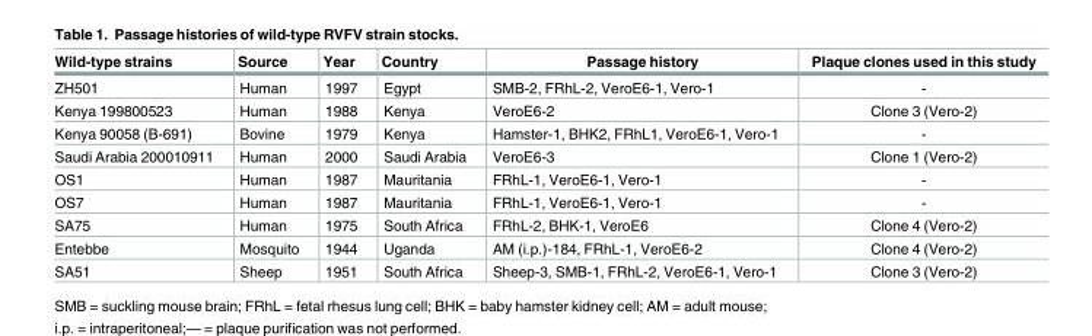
<table><thead><tr><td>Wild-type strains</td><td>Source</td><td>Year</td><td>Country</td><td>Passage history</td><td>Plaque clones used in this study</td></tr></thead><tbody><tr><td>ZH501</td><td>Human</td><td>1997</td><td>Egypt</td><td>SMB-2, FRhL-2, VeroE6-1, Vero-1</td><td>-</td></tr><tr><td>Kenya 199800523</td><td>Human</td><td>1988</td><td>Kenya</td><td>VeroE6-2</td><td>Clone 3 (Vero-2)</td></tr><tr><td>Kenya 90058 (B-691)</td><td>Bovine</td><td>1979</td><td>Kenya</td><td>Hamster-1, BHK2, FRhL1, VeroE6-1, Vero-1</td><td>-</td></tr><tr><td>Saudi Arabia 200010911</td><td>Human</td><td>2000</td><td>Saudi Arabia</td><td>VeroE6-3</td><td>Clone 1 (Vero-2)</td></tr><tr><td>OS1</td><td>Human</td><td>1987</td><td>Mauritania</td><td>FRhL-1, VeroE6-1, Vero-1</td><td>-</td></tr><tr><td>OS7</td><td>Human</td><td>1987</td><td>Mauritania</td><td>FRhL-1, VeroE6-1, Vero-1</td><td>-</td></tr><tr><td>SA75</td><td>Human</td><td>1975</td><td>South Africa</td><td>FRhL-2, BHK-1, VeroE6</td><td>Clone 4 (Vero-2)</td></tr><tr><td>Entebbe</td><td>Mosquito</td><td>1944</td><td>Uganda</td><td>AM (i.p.)-184, FRhL-1, VeroE6-2</td><td>Clone 4 (Vero-2)</td></tr><tr><td>SA51</td><td>Sheep</td><td>1951</td><td>South Africa</td><td>Sheep-3, SMB-1, FRhL-2, VeroE6-1, Vero-1</td><td>Clone 3 (Vero-2)</td></tr></tbody></table>